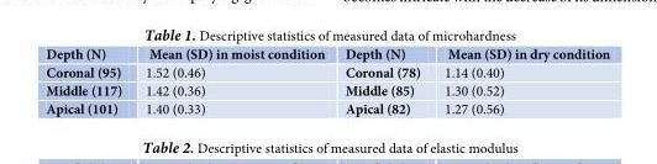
<table><thead><tr><td>Depth (N)</td><td>Mean (SD) in moist condition</td><td>Depth (N)</td><td>Mean (SD) in dry condition</td></tr></thead><tbody><tr><td>Coronal (95)</td><td>1.52 (0.46)</td><td>Coronal (78)</td><td>1.14 (0.40)</td></tr><tr><td>Middle (117)</td><td>1.42 (0.36)</td><td>Middle (85)</td><td>1.30 (0.52)</td></tr><tr><td>Apical (101)</td><td>1.40 (0.33)</td><td>Apical (82)</td><td>1.27 (0.56)</td></tr></tbody></table>